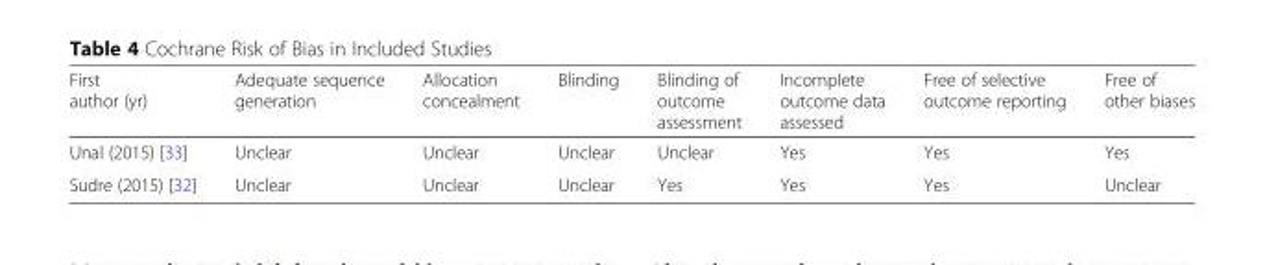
<table><thead><tr><td>First author (yr)</td><td>Adequate sequence generation</td><td>Allocation concealment</td><td>Blinding</td><td>Blinding of outcome assessment</td><td>Incomplete outcome data assessed</td><td>Free of selective outcome reporting</td><td>Free of other biases</td></tr></thead><tbody><tr><td>Unal (2015) [33]</td><td>Unclear</td><td>Unclear</td><td>Unclear</td><td>Unclear</td><td>Yes</td><td>Yes</td><td>Yes</td></tr><tr><td>Sudre (2015) [32]</td><td>Unclear</td><td>Unclear</td><td>Unclear</td><td>Yes</td><td>Yes</td><td>Yes</td><td>Unclear</td></tr></tbody></table>